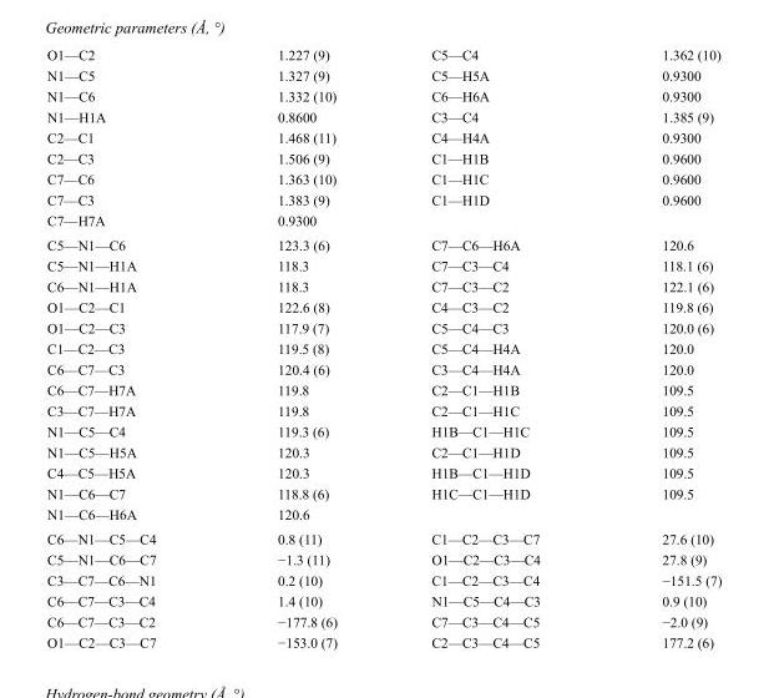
<table><tbody><tr><td>O1—C2</td><td>1.227 (9)</td><td>C5—C4</td><td>1.362 (10)</td></tr><tr><td>N1—C5</td><td>1.327 (9)</td><td>C5—H5A</td><td>0.9300</td></tr><tr><td>N1—C6</td><td>1.332 (10)</td><td>C6—H6A</td><td>0.9300</td></tr><tr><td>N1—H1A</td><td>0.8600</td><td>C3—C4</td><td>1.385 (9)</td></tr><tr><td>C2—C1</td><td>1.468 (11)</td><td>C4—H4A</td><td>0.9300</td></tr><tr><td>C2—C3</td><td>1.506 (9)</td><td>C1—H1B</td><td>0.9600</td></tr><tr><td>C7—C6</td><td>1.363 (10)</td><td>C1—H1C</td><td>0.9600</td></tr><tr><td>C7—C3</td><td>1.383 (9)</td><td>C1—H1D</td><td>0.9600</td></tr><tr><td>C7—H7A</td><td>0.9300</td><td></td><td></td></tr><tr><td>C5—N1—C6</td><td>123.3 (6)</td><td>C7—C6—H6A</td><td>120.6</td></tr><tr><td>C5—N1—H1A</td><td>118.3</td><td>C7—C3—C4</td><td>118.1 (6)</td></tr><tr><td>C6—N1—H1A</td><td>118.3</td><td>C7—C3—C2</td><td>122.1 (6)</td></tr><tr><td>O1—C2—C1</td><td>122.6 (8)</td><td>C4—C3—C2</td><td>119.8 (6)</td></tr><tr><td>O1—C2—C3</td><td>117.9 (7)</td><td>C5—C4—C3</td><td>120.0 (6)</td></tr><tr><td>C1—C2—C3</td><td>119.5 (8)</td><td>C5—C4—H4A</td><td>120.0</td></tr><tr><td>C6—C7—C3</td><td>120.4 (6)</td><td>C3—C4—H4A</td><td>120.0</td></tr><tr><td>C6—C7—H7A</td><td>119.8</td><td>C2—C1—H1B</td><td>109.5</td></tr><tr><td>C3—C7—H7A</td><td>119.8</td><td>C2—C1—H1C</td><td>109.5</td></tr><tr><td>N1—C5—C4</td><td>119.3 (6)</td><td>H1B—C1—H1C</td><td>109.5</td></tr><tr><td>N1—C5—H5A</td><td>120.3</td><td>C2—C1—H1D</td><td>109.5</td></tr><tr><td>C4—C5—H5A</td><td>120.3</td><td>H1B—C1—H1D</td><td>109.5</td></tr><tr><td>N1—C6—C7</td><td>118.8 (6)</td><td>H1C—C1—H1D</td><td>109.5</td></tr><tr><td>N1—C6—H6A</td><td>120.6</td><td></td><td></td></tr><tr><td>C6—N1—C5—C4</td><td>0.8 (11)</td><td>C1—C2—C3—C7</td><td>27.6 (10)</td></tr><tr><td>C5—N1—C6—C7</td><td>−1.3 (11)</td><td>O1—C2—C3—C4</td><td>27.8 (9)</td></tr><tr><td>C3—C7—C6—N1</td><td>0.2 (10)</td><td>C1—C2—C3—C4</td><td>−151.5 (7)</td></tr><tr><td>C6—C7—C3—C4</td><td>1.4 (10)</td><td>N1—C5—C4—C3</td><td>0.9 (10)</td></tr><tr><td>C6—C7—C3—C2</td><td>−177.8 (6)</td><td>C7—C3—C4—C5</td><td>−2.0 (9)</td></tr><tr><td>O1—C2—C3—C7</td><td>−153.0 (7)</td><td>C2—C3—C4—C5</td><td>177.2 (6)</td></tr></tbody></table>